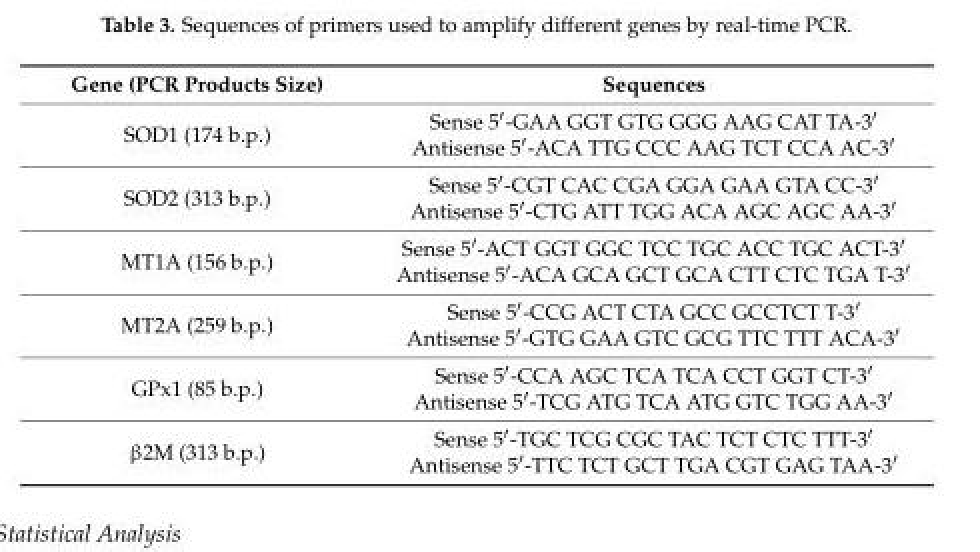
<table><thead><tr><td>Gene (PCR Products Size)</td><td>Sequences</td></tr></thead><tbody><tr><td>SOD1 (174 b.p.)</td><td>Sense 5′-GAA GGT GTG GGG AAG CAT TA-3′ Antisense 5′-ACA TTG CCC AAG TCT CCA AC-3′</td></tr><tr><td>SOD2 (313 b.p.)</td><td>Sense 5′-CGT CAC CGA GGA GAA GTA CC-3′ Antisense 5′-CTG ATT TGG ACA AGC AGC AA-3′</td></tr><tr><td>MT1A (156 b.p.)</td><td>Sense 5′-ACT GGT GGC TCC TGC ACC TGC ACT-3′ Antisense 5′-ACA GCA GCT GCA CTT CTC TGA T-3′</td></tr><tr><td>MT2A (259 b.p.)</td><td>Sense 5′-CCG ACT CTA GCC GCCTCT T-3′ Antisense 5′-GTG GAA GTC GCG TTC TTT ACA-3′</td></tr><tr><td>GPx1 (85 b.p.)</td><td>Sense 5′-CCA AGC TCA TCA CCT GGT CT-3′ Antisense 5′-TCG ATG TCA ATG GTC TGG AA-3′</td></tr><tr><td>β2M (313 b.p.)</td><td>Sense 5′-TGC TCG CGC TAC TCT CTC TTT-3′ Antisense 5′-TTC TCT GCT TGA CGT GAG TAA-3′</td></tr></tbody></table>